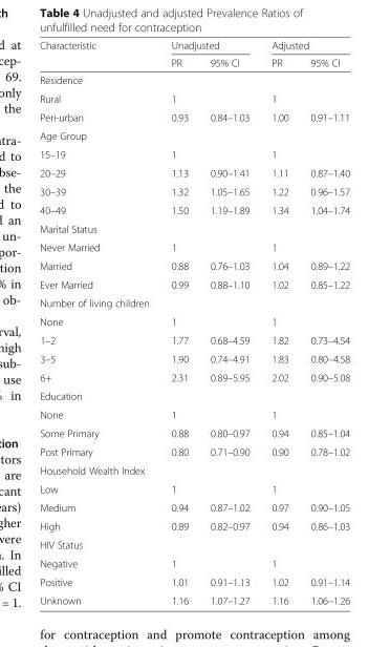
<table><thead><tr><td rowspan="2">Characteristic</td><td colspan="2">Unadjusted</td><td colspan="2">Adjusted</td></tr><tr><td>PR</td><td>95% CI</td><td>PR</td><td>95% CI</td></tr></thead><tbody><tr><td colspan="5">Residence</td></tr><tr><td>Rural</td><td>1</td><td></td><td>1</td><td></td></tr><tr><td>Peri-urban</td><td>0.93</td><td>0.84–1.03</td><td>1.00</td><td>0.91–1.11</td></tr><tr><td colspan="5">Age Group</td></tr><tr><td>15–19</td><td>1</td><td></td><td>1</td><td></td></tr><tr><td>20–29</td><td>1.13</td><td>0.90–1.41</td><td>1.11</td><td>0.87–1.40</td></tr><tr><td>30–39</td><td>1.32</td><td>1.05–1.65</td><td>1.22</td><td>0.96–1.57</td></tr><tr><td>40–49</td><td>1.50</td><td>1.19–1.89</td><td>1.34</td><td>1.04–1.74</td></tr><tr><td colspan="5">Marital Status</td></tr><tr><td>Never Married</td><td>1</td><td></td><td>1</td><td></td></tr><tr><td>Married</td><td>0.88</td><td>0.76–1.03</td><td>1.04</td><td>0.89–1.22</td></tr><tr><td>Ever Married</td><td>0.99</td><td>0.88–1.10</td><td>1.02</td><td>0.85–1.22</td></tr><tr><td colspan="5">Number of living children</td></tr><tr><td>None</td><td>1</td><td></td><td>1</td><td></td></tr><tr><td>1–2</td><td>1.77</td><td>0.68–4.59</td><td>1.82</td><td>0.73–4.54</td></tr><tr><td>3–5</td><td>1.90</td><td>0.74–4.91</td><td>1.83</td><td>0.80–4.58</td></tr><tr><td>6+</td><td>2.31</td><td>0.89–5.95</td><td>2.02</td><td>0.90–5.08</td></tr><tr><td colspan="5">Education</td></tr><tr><td>None</td><td>1</td><td></td><td>1</td><td></td></tr><tr><td>Some Primary</td><td>0.88</td><td>0.80–0.97</td><td>0.94</td><td>0.85–1.04</td></tr><tr><td>Post Primary</td><td>0.80</td><td>0.71–0.90</td><td>0.90</td><td>0.78–1.02</td></tr><tr><td colspan="5">Household Wealth Index</td></tr><tr><td>Low</td><td>1</td><td></td><td>1</td><td></td></tr><tr><td>Medium</td><td>0.94</td><td>0.87–1.02</td><td>0.97</td><td>0.90–1.05</td></tr><tr><td>High</td><td>0.89</td><td>0.82–0.97</td><td>0.94</td><td>0.86–1.03</td></tr><tr><td colspan="5">HIV Status</td></tr><tr><td>Negative</td><td>1</td><td></td><td>1</td><td></td></tr><tr><td>Positive</td><td>1.01</td><td>0.91–1.13</td><td>1.02</td><td>0.91–1.14</td></tr><tr><td>Unknown</td><td>1.16</td><td>1.07–1.27</td><td>1.16</td><td>1.06–1.26</td></tr></tbody></table>